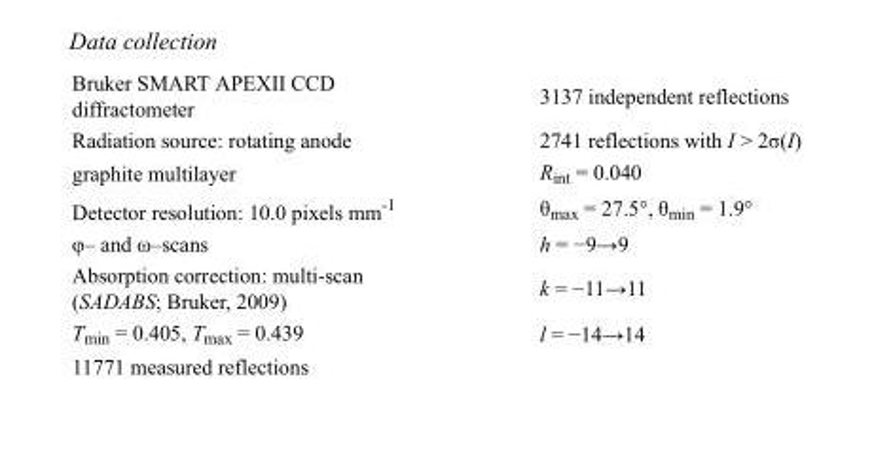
<table><tbody><tr><td>Bruker SMART APEXII CCD diffractometer</td><td>3137 independent reflections</td></tr><tr><td>Radiation source: rotating anode</td><td>2741 reflections with I &gt; 2σ(I)</td></tr><tr><td>graphite multilayer</td><td>R<sub>int</sub> = 0.040</td></tr><tr><td>Detector resolution: 10.0 pixels mm<sup>-1</sup></td><td>θ<sub>max</sub> = 27.5°, θ<sub>min</sub> = 1.9°</td></tr><tr><td>φ– and ω–scans</td><td>h = −9→9</td></tr><tr><td>Absorption correction: multi-scan (SADABS; Bruker, 2009)</td><td>k = −11→11</td></tr><tr><td>T<sub>min</sub> = 0.405, T<sub>max</sub> = 0.439</td><td>l = −14→14</td></tr><tr><td>11771 measured reflections</td><td></td></tr></tbody></table>